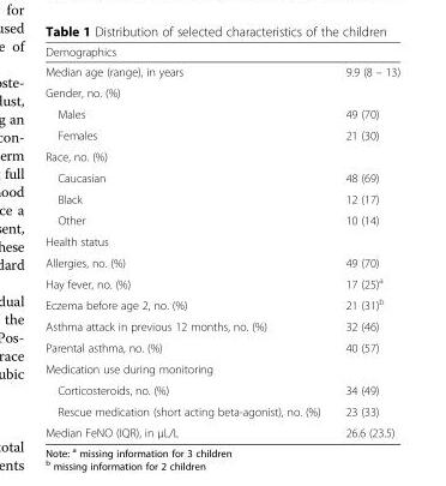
<table><thead><tr><td>Demographics</td><td></td></tr></thead><tbody><tr><td>Median age (range), in years</td><td>9.9 (8 – 13)</td></tr><tr><td colspan="2">Gender, no. (%)</td></tr><tr><td>Males</td><td>49 (70)</td></tr><tr><td>Females</td><td>21 (30)</td></tr><tr><td colspan="2">Race, no. (%)</td></tr><tr><td>Caucasian</td><td>48 (69)</td></tr><tr><td>Black</td><td>12 (17)</td></tr><tr><td>Other</td><td>10 (14)</td></tr><tr><td colspan="2">Health status</td></tr><tr><td>Allergies, no. (%)</td><td>49 (70)</td></tr><tr><td>Hay fever, no. (%)</td><td>17 (25)<sup>a</sup></td></tr><tr><td>Eczema before age 2, no. (%)</td><td>21 (31)<sup>b</sup></td></tr><tr><td>Asthma attack in previous 12 months, no. (%)</td><td>32 (46)</td></tr><tr><td>Parental asthma, no. (%)</td><td>40 (57)</td></tr><tr><td colspan="2">Medication use during monitoring</td></tr><tr><td>Corticosteroids, no. (%)</td><td>34 (49)</td></tr><tr><td>Rescue medication (short acting beta-agonist), no. (%)</td><td>23 (33)</td></tr><tr><td>Median FeNO (IQR), in μL/L</td><td>26.6 (23.5)</td></tr></tbody></table>